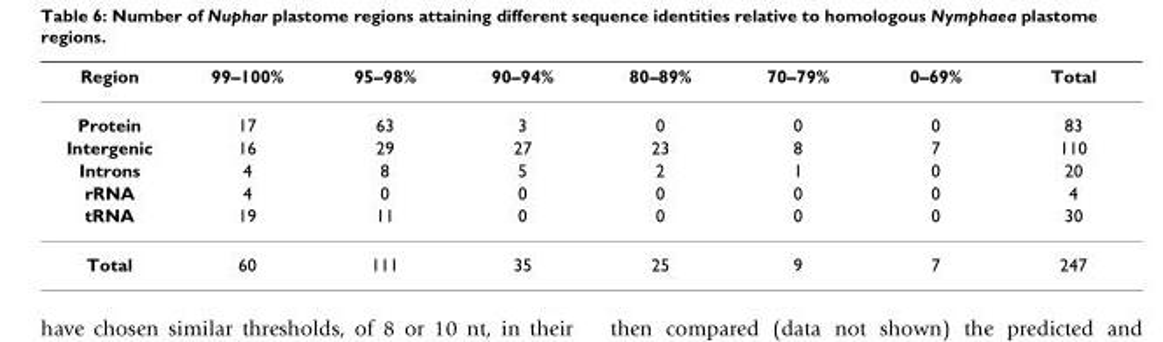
<table><thead><tr><td>Region</td><td>99–100%</td><td>95–98%</td><td>90–94%</td><td>80–89%</td><td>70–79%</td><td>0–69%</td><td>Total</td></tr></thead><tbody><tr><td>Protein</td><td>17</td><td>63</td><td>3</td><td>0</td><td>0</td><td>0</td><td>83</td></tr><tr><td>Intergenic</td><td>16</td><td>29</td><td>27</td><td>23</td><td>8</td><td>7</td><td>110</td></tr><tr><td>Introns</td><td>4</td><td>8</td><td>5</td><td>2</td><td>1</td><td>0</td><td>20</td></tr><tr><td>rRNA</td><td>4</td><td>0</td><td>0</td><td>0</td><td>0</td><td>0</td><td>4</td></tr><tr><td>tRNA</td><td>19</td><td>11</td><td>0</td><td>0</td><td>0</td><td>0</td><td>30</td></tr><tr><td>Total</td><td>60</td><td>111</td><td>35</td><td>25</td><td>9</td><td>7</td><td>247</td></tr></tbody></table>